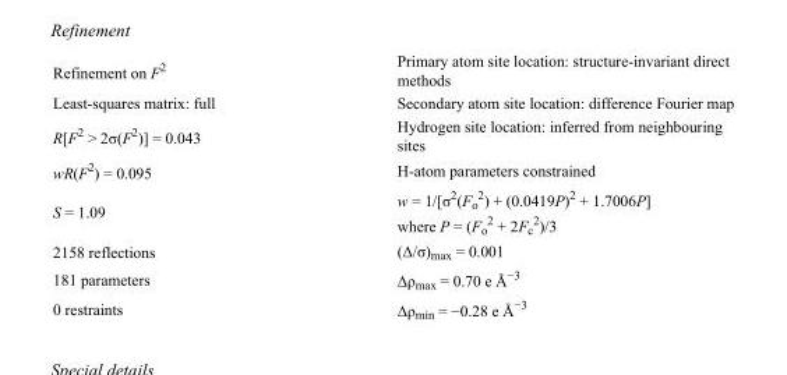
<table><tbody><tr><td>Refinement on F<sup>2</sup></td><td>Primary atom site location: structure-invariant direct methods</td></tr><tr><td>Least-squares matrix: full</td><td>Secondary atom site location: difference Fourier map</td></tr><tr><td>R[F<sup>2</sup> &gt; 2σ(F<sup>2</sup>)] = 0.043</td><td>Hydrogen site location: inferred from neighbouring sites</td></tr><tr><td>wR(F<sup>2</sup>) = 0.095</td><td>H-atom parameters constrained</td></tr><tr><td>S = 1.09</td><td>w = 1/[σ<sup>2</sup>(F<sub>o</sub> <sup>2</sup>) + (0.0419P)<sup>2</sup> + 1.7006P] where P = (F<sub>o</sub> <sup>2</sup> + 2F<sub>c</sub> <sup>2</sup>)/3</td></tr><tr><td>2158 reflections</td><td>(Δ/σ)<sub>max</sub> = 0.001</td></tr><tr><td>181 parameters</td><td>Δρ<sub>max</sub> = 0.70 e Å<sup>−3</sup></td></tr><tr><td>0 restraints</td><td>Δρ<sub>min</sub> = −0.28 e Å<sup>−3</sup></td></tr></tbody></table>